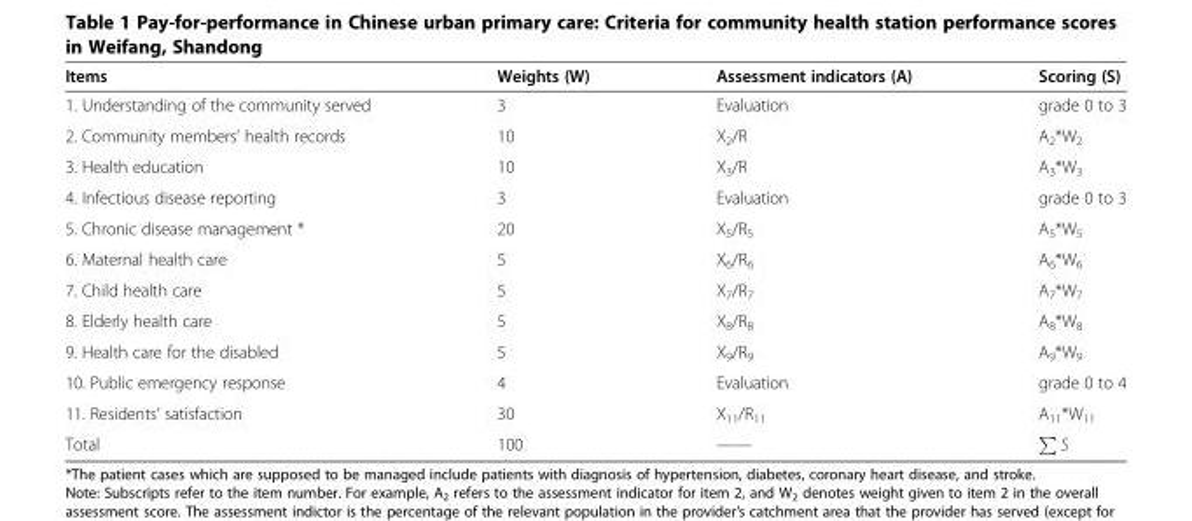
<table><thead><tr><td>Items</td><td>Weights (W)</td><td>Assessment indicators (A)</td><td>Scoring (S)</td></tr></thead><tbody><tr><td>1. Understanding of the community served</td><td>3</td><td>Evaluation</td><td>grade 0 to 3</td></tr><tr><td>2. Community members’ health records</td><td>10</td><td>X<sub>2</sub>/R</td><td>A<sub>2</sub>*W<sub>2</sub></td></tr><tr><td>3. Health education</td><td>10</td><td>X<sub>3</sub>/R</td><td>A<sub>3</sub>*W<sub>3</sub></td></tr><tr><td>4. Infectious disease reporting</td><td>3</td><td>Evaluation</td><td>grade 0 to 3</td></tr><tr><td>5. Chronic disease management *</td><td>20</td><td>X<sub>5</sub>/R<sub>5</sub></td><td>A<sub>5</sub>*W<sub>5</sub></td></tr><tr><td>6. Maternal health care</td><td>5</td><td>X<sub>6</sub>/R<sub>6</sub></td><td>A<sub>6</sub>*W<sub>6</sub></td></tr><tr><td>7. Child health care</td><td>5</td><td>X<sub>7</sub>/R<sub>7</sub></td><td>A<sub>7</sub>*W<sub>7</sub></td></tr><tr><td>8. Elderly health care</td><td>5</td><td>X<sub>8</sub>/R<sub>8</sub></td><td>A<sub>8</sub>*W<sub>8</sub></td></tr><tr><td>9. Health care for the disabled</td><td>5</td><td>X<sub>9</sub>/R<sub>9</sub></td><td>A<sub>9</sub>*W<sub>9</sub></td></tr><tr><td>10. Public emergency response</td><td>4</td><td>Evaluation</td><td>grade 0 to 4</td></tr><tr><td>11. Residents’ satisfaction</td><td>30</td><td>X<sub>11</sub>/R<sub>11</sub></td><td>A<sub>11</sub>*W<sub>11</sub></td></tr><tr><td>Total</td><td>100</td><td>——</td><td>S</td></tr></tbody></table>